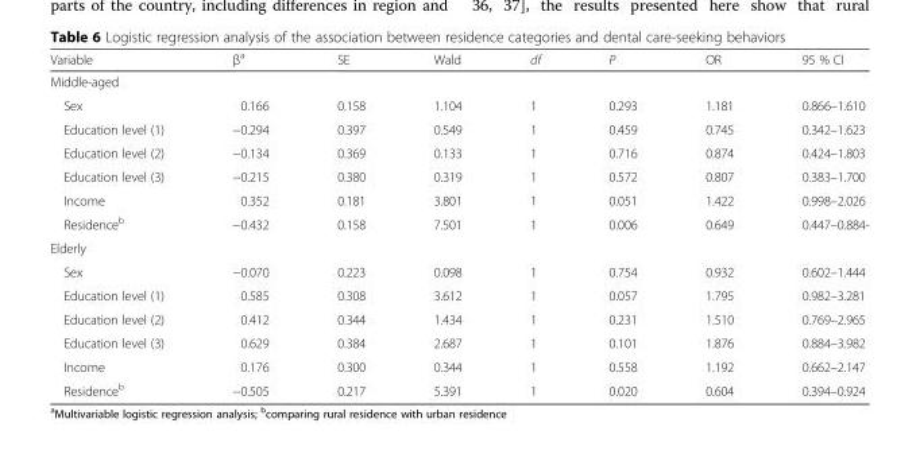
<table><thead><tr><td>Variable</td><td>β<sup>a</sup></td><td>SE</td><td>Wald</td><td>df</td><td>P</td><td>OR</td><td>95 % CI</td></tr></thead><tbody><tr><td colspan="8">Middle-aged</td></tr><tr><td>Sex</td><td>0.166</td><td>0.158</td><td>1.104</td><td>1</td><td>0.293</td><td>1.181</td><td>0.866–1.610</td></tr><tr><td>Education level (1)</td><td>−0.294</td><td>0.397</td><td>0.549</td><td>1</td><td>0.459</td><td>0.745</td><td>0.342–1.623</td></tr><tr><td>Education level (2)</td><td>−0.134</td><td>0.369</td><td>0.133</td><td>1</td><td>0.716</td><td>0.874</td><td>0.424–1.803</td></tr><tr><td>Education level (3)</td><td>−0.215</td><td>0.380</td><td>0.319</td><td>1</td><td>0.572</td><td>0.807</td><td>0.383–1.700</td></tr><tr><td>Income</td><td>0.352</td><td>0.181</td><td>3.801</td><td>1</td><td>0.051</td><td>1.422</td><td>0.998–2.026</td></tr><tr><td>Residence<sup>b</sup></td><td>−0.432</td><td>0.158</td><td>7.501</td><td>1</td><td>0.006</td><td>0.649</td><td>0.447–0.884-</td></tr><tr><td colspan="8">Elderly</td></tr><tr><td>Sex</td><td>−0.070</td><td>0.223</td><td>0.098</td><td>1</td><td>0.754</td><td>0.932</td><td>0.602–1.444</td></tr><tr><td>Education level (1)</td><td>0.585</td><td>0.308</td><td>3.612</td><td>1</td><td>0.057</td><td>1.795</td><td>0.982–3.281</td></tr><tr><td>Education level (2)</td><td>0.412</td><td>0.344</td><td>1.434</td><td>1</td><td>0.231</td><td>1.510</td><td>0.769–2.965</td></tr><tr><td>Education level (3)</td><td>0.629</td><td>0.384</td><td>2.687</td><td>1</td><td>0.101</td><td>1.876</td><td>0.884–3.982</td></tr><tr><td>Income</td><td>0.176</td><td>0.300</td><td>0.344</td><td>1</td><td>0.558</td><td>1.192</td><td>0.662–2.147</td></tr><tr><td>Residence<sup>b</sup></td><td>−0.505</td><td>0.217</td><td>5.391</td><td>1</td><td>0.020</td><td>0.604</td><td>0.394–0.924</td></tr></tbody></table>